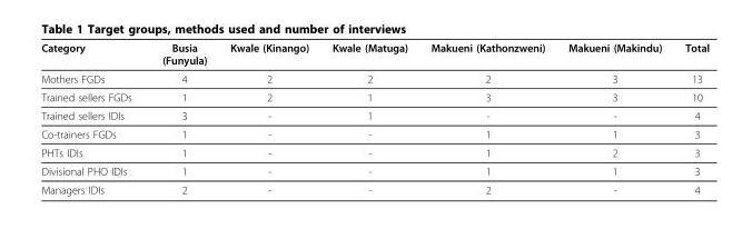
<table><thead><tr><td>Category</td><td>Busia (Funyula)</td><td>Kwale (Kinango)</td><td>Kwale (Matuga)</td><td>Makueni (Kathonzweni)</td><td>Makueni (Makindu)</td><td>Total</td></tr></thead><tbody><tr><td>Mothers FGDs</td><td>4</td><td>2</td><td>2</td><td>2</td><td>3</td><td>13</td></tr><tr><td>Trained sellers FGDs</td><td>1</td><td>2</td><td>1</td><td>3</td><td>3</td><td>10</td></tr><tr><td>Trained sellers IDIs</td><td>3</td><td>-</td><td>1</td><td>-</td><td>-</td><td>4</td></tr><tr><td>Co-trainers FGDs</td><td>1</td><td>-</td><td>-</td><td>1</td><td>1</td><td>3</td></tr><tr><td>PHTs IDIs</td><td>1</td><td>-</td><td>-</td><td>1</td><td>2</td><td>3</td></tr><tr><td>Divisional PHO IDIs</td><td>1</td><td>-</td><td>-</td><td>1</td><td>1</td><td>3</td></tr><tr><td>Managers IDIs</td><td>2</td><td>-</td><td>-</td><td>2</td><td>-</td><td>4</td></tr></tbody></table>